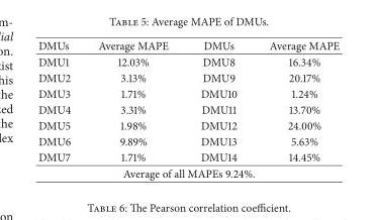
<table><thead><tr><td>DMUs</td><td>Average MAPE</td><td>DMUs</td><td>Average MAPE</td></tr></thead><tbody><tr><td>DMU1</td><td>12.03%</td><td>DMU8</td><td>16.34%</td></tr><tr><td>DMU2</td><td>3.13%</td><td>DMU9</td><td>20.17%</td></tr><tr><td>DMU3</td><td>1.71%</td><td>DMU10</td><td>1.24%</td></tr><tr><td>DMU4</td><td>3.31%</td><td>DMU11</td><td>13.70%</td></tr><tr><td>DMU5</td><td>1.98%</td><td>DMU12</td><td>24.00%</td></tr><tr><td>DMU6</td><td>9.89%</td><td>DMU13</td><td>5.63%</td></tr><tr><td>DMU7</td><td>1.71%</td><td>DMU14</td><td>14.45%</td></tr><tr><td colspan="4">Average of all MAPEs 9.24%.</td></tr></tbody></table>